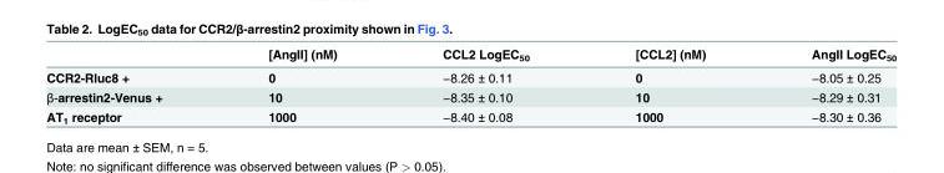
<table><thead><tr><td></td><td>[AngII] (nM)</td><td>CCL2 LogEC<sub>50</sub></td><td>[CCL2] (nM)</td><td>AngII LogEC<sub>50</sub></td></tr></thead><tbody><tr><td>CCR2-Rluc8 +</td><td>0</td><td>−8.26 ± 0.11</td><td>0</td><td>−8.05 ± 0.25</td></tr><tr><td>β-arrestin2-Venus +</td><td>10</td><td>−8.35 ± 0.10</td><td>10</td><td>−8.29 ± 0.31</td></tr><tr><td>AT<sub>1</sub> receptor</td><td>1000</td><td>−8.40 ± 0.08</td><td>1000</td><td>−8.30 ± 0.36</td></tr></tbody></table>